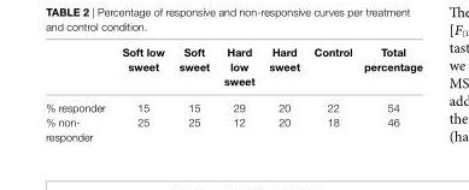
<table><thead><tr><td></td><td>soft low sweet</td><td>soft sweet</td><td>hard low sweet</td><td>hard sweet</td><td>control</td><td>Total percentage</td></tr></thead><tbody><tr><td>% responder</td><td>15</td><td>15</td><td>29</td><td>20</td><td>22</td><td>54</td></tr><tr><td>% non- responder</td><td>25</td><td>25</td><td>12</td><td>20</td><td>18</td><td>46</td></tr></tbody></table>